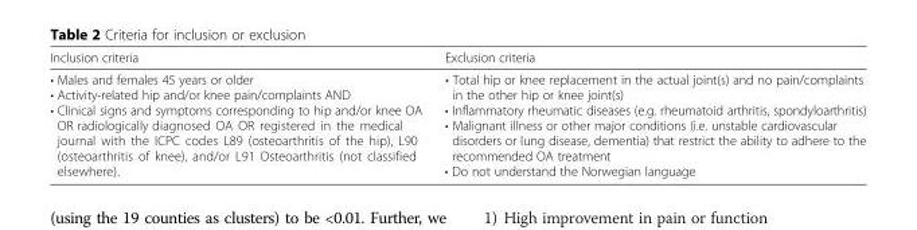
<table><thead><tr><td>Inclusion criteria</td><td>Exclusion criteria</td></tr></thead><tbody><tr><td>• Males and females 45 years or older • Activity-related hip and/or knee pain/complaints AND • Clinical signs and symptoms corresponding to hip and/or knee OA OR radiologically diagnosed OA OR registered in the medical journal with the ICPC codes L89 (osteoarthritis of the hip), L90 (osteoarthritis of knee), and/or L91 Osteoarthritis (not classified elsewhere).</td><td>• Total hip or knee replacement in the actual joint(s) and no pain/complaints in the other hip or knee joint(s) • Inflammatory rheumatic diseases (e.g. rheumatoid arthritis, spondyloarthritis) • Malignant illness or other major conditions (i.e. unstable cardiovascular disorders or lung disease, dementia) that restrict the ability to adhere to the recommended OA treatment • Do not understand the Norwegian language</td></tr></tbody></table>